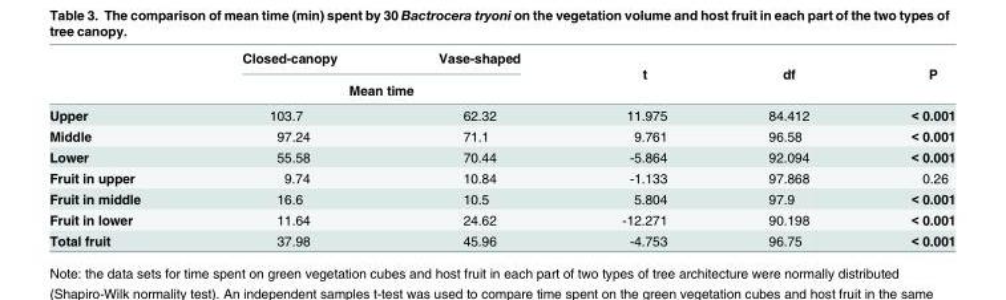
<table><thead><tr><td rowspan="2"></td><td>Closed-canopy</td><td>Vase-shaped</td><td rowspan="2">t</td><td rowspan="2">df</td><td rowspan="2">P</td></tr><tr><td colspan="2">Mean time</td></tr></thead><tbody><tr><td>Upper</td><td>103.7</td><td>62.32</td><td>11.975</td><td>84.412</td><td>&lt; 0.001</td></tr><tr><td>Middle</td><td>97.24</td><td>71.1</td><td>9.761</td><td>96.58</td><td>&lt; 0.001</td></tr><tr><td>Lower</td><td>55.58</td><td>70.44</td><td>-5.864</td><td>92.094</td><td>&lt; 0.001</td></tr><tr><td>Fruit in upper</td><td>9.74</td><td>10.84</td><td>-1.133</td><td>97.868</td><td>0.26</td></tr><tr><td>Fruit in middle</td><td>16.6</td><td>10.5</td><td>5.804</td><td>97.9</td><td>&lt; 0.001</td></tr><tr><td>Fruit in lower</td><td>11.64</td><td>24.62</td><td>-12.271</td><td>90.198</td><td>&lt; 0.001</td></tr><tr><td>Total fruit</td><td>37.98</td><td>45.96</td><td>-4.753</td><td>96.75</td><td>&lt; 0.001</td></tr></tbody></table>